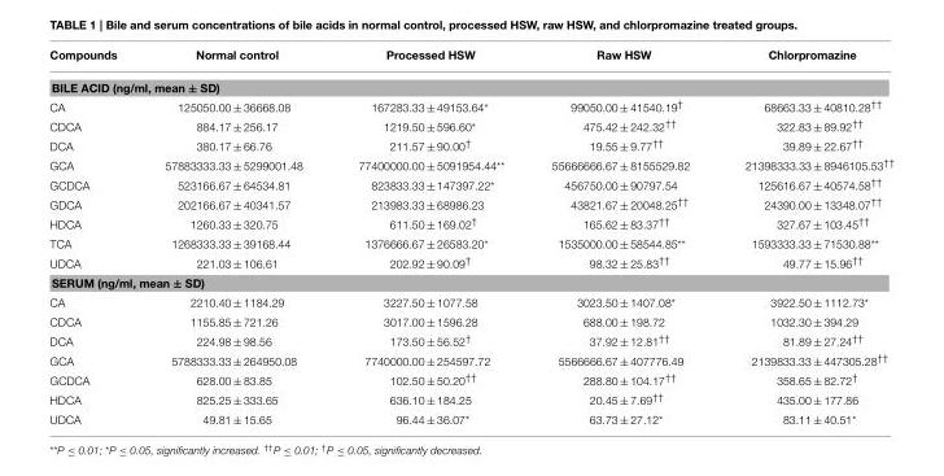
<table><thead><tr><td>Compounds</td><td>Normal control</td><td>Processed HSW</td><td>Raw HSW</td><td>Chlorpromazine</td></tr></thead><tbody><tr><td colspan="5">BILE ACID (ng/ml, mean ± SD)</td></tr><tr><td>CA</td><td>125050.00 ± 36668.08</td><td>167283.33 ± 49153.64*</td><td>99050.00 ± 41540.19<sup>†</sup></td><td>68663.33 ± 40810.28<sup>††</sup></td></tr><tr><td>CDCA</td><td>884.17 ± 256.17</td><td>1219.50 ± 596.60*</td><td>475.42 ± 242.32<sup>††</sup></td><td>322.83 ± 89.92<sup>††</sup></td></tr><tr><td>DCA</td><td>380.17 ± 66.76</td><td>211.57 ± 90.00<sup>†</sup></td><td>19.55 ± 9.77<sup>††</sup></td><td>39.89 ± 22.67<sup>††</sup></td></tr><tr><td>GCA</td><td>57883333.33 ± 5299001.48</td><td>77400000.00 ± 5091954.44**</td><td>55666666.67 ± 8155529.82</td><td>21398333.33 ± 8946105.53<sup>††</sup></td></tr><tr><td>GCDCA</td><td>523166.67 ± 64534.81</td><td>823833.33 ± 147397.22*</td><td>456750.00 ± 90797.54</td><td>125616.67 ± 40574.58<sup>††</sup></td></tr><tr><td>GDCA</td><td>202166.67 ± 40341.57</td><td>213983.33 ± 68986.23</td><td>43821.67 ± 20048.25<sup>††</sup></td><td>24390.00 ± 13348.07<sup>††</sup></td></tr><tr><td>HDCA</td><td>1260.33 ± 320.75</td><td>611.50 ± 169.02<sup>†</sup></td><td>165.62 ± 83.37<sup>††</sup></td><td>327.67 ± 103.45<sup>††</sup></td></tr><tr><td>TCA</td><td>1268333.33 ± 39168.44</td><td>1376666.67 ± 26583.20*</td><td>1535000.00 ± 58544.85**</td><td>1593333.33 ± 71530.88**</td></tr><tr><td>UDCA</td><td>221.03 ± 106.61</td><td>202.92 ± 90.09<sup>†</sup></td><td>98.32 ± 25.83<sup>††</sup></td><td>49.77 ± 15.96<sup>††</sup></td></tr><tr><td colspan="5">SERUM (ng/ml, mean ± SD)</td></tr><tr><td>CA</td><td>2210.40 ± 1184.29</td><td>3227.50 ± 1077.58</td><td>3023.50 ± 1407.08*</td><td>3922.50 ± 1112.73*</td></tr><tr><td>CDCA</td><td>1155.85 ± 721.26</td><td>3017.00 ± 1596.28</td><td>688.00 ± 198.72</td><td>1032.30 ± 394.29</td></tr><tr><td>DCA</td><td>224.98 ± 98.56</td><td>173.50 ± 56.52<sup>†</sup></td><td>37.92 ± 12.81<sup>††</sup></td><td>81.89 ± 27.24<sup>††</sup></td></tr><tr><td>GCA</td><td>5788333.33 ± 264950.08</td><td>7740000.00 ± 254597.72</td><td>5566666.67 ± 407776.49</td><td>2139833.33 ± 447305.28<sup>††</sup></td></tr><tr><td>GCDCA</td><td>628.00 ± 83.85</td><td>102.50 ± 50.20<sup>††</sup></td><td>288.80 ± 104.17<sup>††</sup></td><td>358.65 ± 82.72<sup>†</sup></td></tr><tr><td>HDCA</td><td>825.25 ± 333.65</td><td>636.10 ± 184.25</td><td>20.45 ± 7.69<sup>††</sup></td><td>435.00 ± 177.86</td></tr><tr><td>UDCA</td><td>49.81 ± 15.65</td><td>96.44 ± 36.07*</td><td>63.73 ± 27.12*</td><td>83.11 ± 40.51*</td></tr></tbody></table>